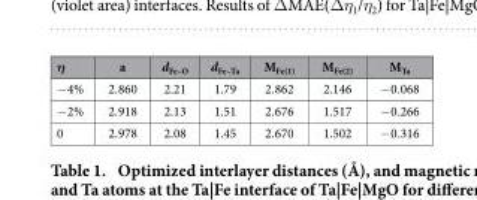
<table><thead><tr><td>η</td><td>a</td><td>d<sub>Fe–O</sub></td><td>d<sub>Fe–Ta</sub></td><td>M<sub>Fe(1)</sub></td><td>M<sub>Fe(2)</sub></td><td>M<sub>Ta</sub></td></tr></thead><tbody><tr><td>− 4%</td><td>2.860</td><td>2.21</td><td>1.79</td><td>2.862</td><td>2.146</td><td>− 0.068</td></tr><tr><td>− 2%</td><td>2.918</td><td>2.13</td><td>1.51</td><td>2.676</td><td>1.517</td><td>− 0.266</td></tr><tr><td>0</td><td>2.978</td><td>2.08</td><td>1.45</td><td>2.670</td><td>1.502</td><td>− 0.316</td></tr></tbody></table>